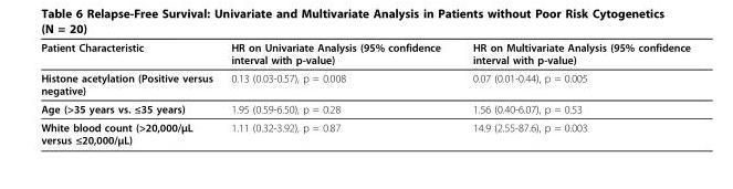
<table><thead><tr><td>Patient Characteristic</td><td>HR on Univariate Analysis (95% confidence interval with p-value)</td><td>HR on Multivariate Analysis (95% confidence interval with p-value)</td></tr></thead><tbody><tr><td>Histone acetylation (Positive versus negative)</td><td>0.13 (0.03-0.57), p = 0.008</td><td>0.07 (0.01-0.44), p = 0.005</td></tr><tr><td>Age (&gt;35 years vs. ≤35 years)</td><td>1.95 (0.59-6.50), p = 0.28</td><td>1.56 (0.40-6.07), p = 0.53</td></tr><tr><td>White blood count (&gt;20,000/μL versus ≤20,000/μL)</td><td>1.11 (0.32-3.92), p = 0.87</td><td>14.9 (2.55-87.6), p = 0.003</td></tr></tbody></table>